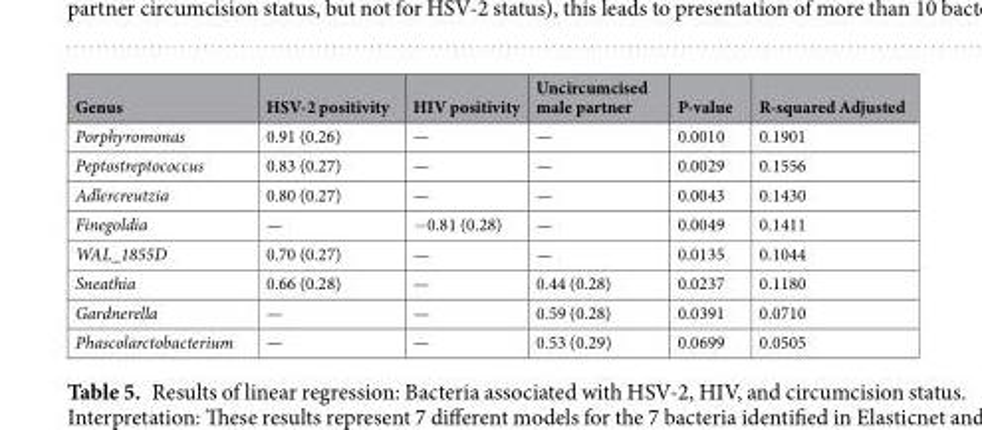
<table><thead><tr><td>Genus</td><td>HSV-2 positivity</td><td>HIV positivity</td><td>Uncircumcised male partner</td><td>P-value</td><td>R-squared Adjusted</td></tr></thead><tbody><tr><td>Porphyromonas</td><td>0.91 (0.26)</td><td>—</td><td>—</td><td>0.0010</td><td>0.1901</td></tr><tr><td>Peptostreptococcus</td><td>0.83 (0.27)</td><td>—</td><td>—</td><td>0.0029</td><td>0.1556</td></tr><tr><td>Adlercreutzia</td><td>0.80 (0.27)</td><td>—</td><td>—</td><td>0.0043</td><td>0.1430</td></tr><tr><td>Finegoldia</td><td>—</td><td>−0.81 (0.28)</td><td>—</td><td>0.0049</td><td>0.1411</td></tr><tr><td>WAL_1855D</td><td>0.70 (0.27)</td><td>—</td><td>—</td><td>0.0135</td><td>0.1044</td></tr><tr><td>Sneathia</td><td>0.66 (0.28)</td><td>—</td><td>0.44 (0.28)</td><td>0.0237</td><td>0.1180</td></tr><tr><td>Gardnerella</td><td>—</td><td>—</td><td>0.59 (0.28)</td><td>0.0391</td><td>0.0710</td></tr><tr><td>Phascolarctobacterium</td><td>—</td><td>—</td><td>0.53 (0.29)</td><td>0.0699</td><td>0.0505</td></tr></tbody></table>